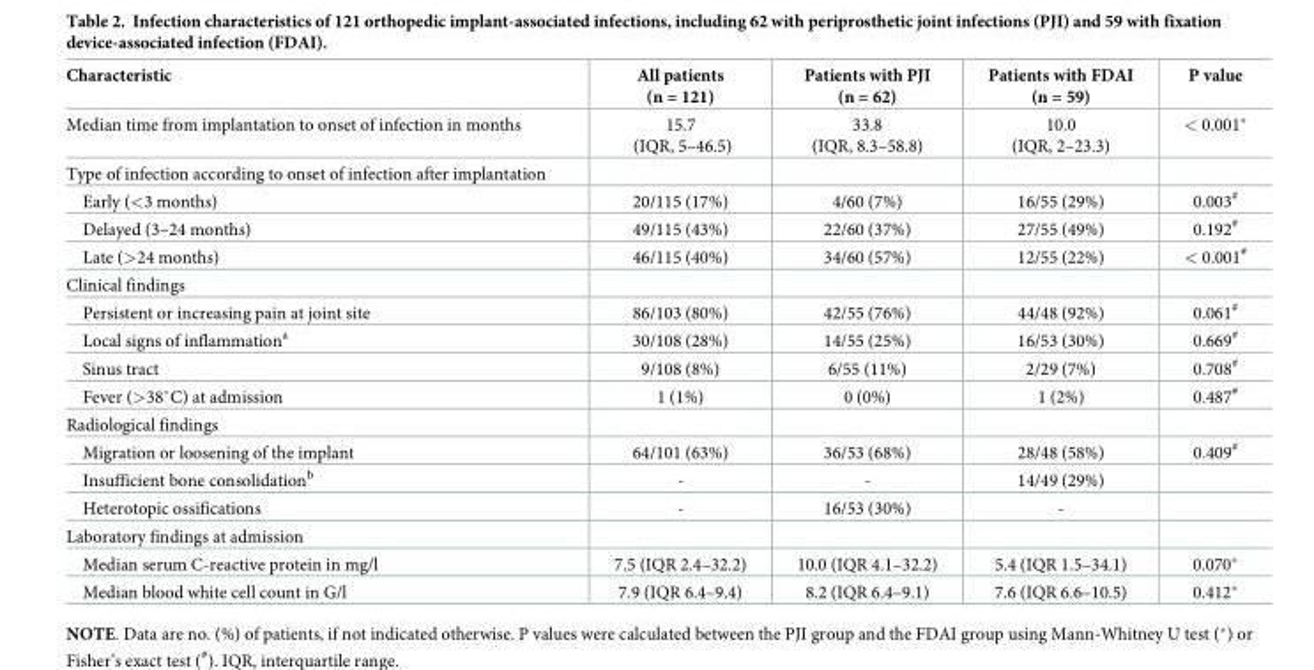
<table><thead><tr><td>Characteristic</td><td>All patients (n = 121)</td><td>Patients with PJI (n = 62)</td><td>Patients with FDAI (n = 59)</td><td>P value</td></tr></thead><tbody><tr><td>Median time from implantation to onset of infection in months</td><td>15.7 (IQR, 5–46.5)</td><td>33.8 (IQR, 8.3–58.8)</td><td>10.0 (IQR, 2–23.3)</td><td>&lt; 0.001*</td></tr><tr><td colspan="5">Type of infection according to onset of infection after implantation</td></tr><tr><td>Early (&lt;3 months)</td><td>20/115 (17%)</td><td>4/60 (7%)</td><td>16/55 (29%)</td><td>0.003<sup>#</sup></td></tr><tr><td>Delayed (3–24 months)</td><td>49/115 (43%)</td><td>22/60 (37%)</td><td>27/55 (49%)</td><td>0.192<sup>#</sup></td></tr><tr><td>Late (&gt;24 months)</td><td>46/115 (40%)</td><td>34/60 (57%)</td><td>12/55 (22%)</td><td>&lt; 0.001<sup>#</sup></td></tr><tr><td colspan="5">Clinical findings</td></tr><tr><td>Persistent or increasing pain at joint site</td><td>86/103 (80%)</td><td>42/55 (76%)</td><td>44/48 (92%)</td><td>0.061<sup>#</sup></td></tr><tr><td>Local signs of inflammation<sup>a</sup></td><td>30/108 (28%)</td><td>14/55 (25%)</td><td>16/53 (30%)</td><td>0.669<sup>#</sup></td></tr><tr><td>Sinus tract</td><td>9/108 (8%)</td><td>6/55 (11%)</td><td>2/29 (7%)</td><td>0.708<sup>#</sup></td></tr><tr><td>Fever (&gt;38˚C) at admission</td><td>1 (1%)</td><td>0 (0%)</td><td>1 (2%)</td><td>0.487<sup>#</sup></td></tr><tr><td colspan="5">Radiological findings</td></tr><tr><td>Migration or loosening of the implant</td><td>64/101 (63%)</td><td>36/53 (68%)</td><td>28/48 (58%)</td><td>0.409<sup>#</sup></td></tr><tr><td>Insufficient bone consolidation<sup>b</sup></td><td>-</td><td>-</td><td>14/49 (29%)</td><td></td></tr><tr><td>Heterotopic ossifications</td><td>-</td><td>16/53 (30%)</td><td>-</td><td></td></tr><tr><td colspan="5">Laboratory findings at admission</td></tr><tr><td>Median serum C-reactive protein in mg/l</td><td>7.5 (IQR 2.4–32.2)</td><td>10.0 (IQR 4.1–32.2)</td><td>5.4 (IQR 1.5–34.1)</td><td>0.070*</td></tr><tr><td>Median blood white cell count in G/l</td><td>7.9 (IQR 6.4–9.4)</td><td>8.2 (IQR 6.4–9.1)</td><td>7.6 (IQR 6.6–10.5)</td><td>0.412*</td></tr></tbody></table>